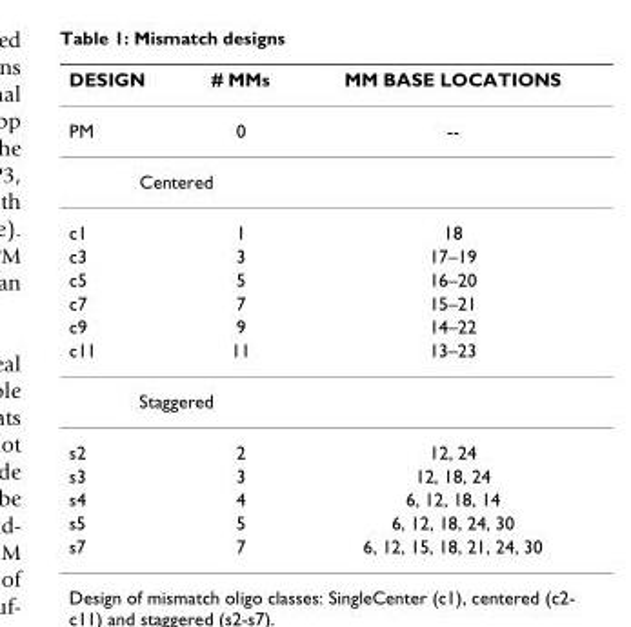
<table><thead><tr><td>DESIGN</td><td># MMs</td><td>MM BASE LOCATIONS</td></tr></thead><tbody><tr><td>PM</td><td>0</td><td>--</td></tr><tr><td colspan="3">Centered</td></tr><tr><td>c1</td><td>1</td><td>18</td></tr><tr><td>c3</td><td>3</td><td>17–19</td></tr><tr><td>c5</td><td>5</td><td>16–20</td></tr><tr><td>c7</td><td>7</td><td>15–21</td></tr><tr><td>c9</td><td>9</td><td>14–22</td></tr><tr><td>c11</td><td>11</td><td>13–23</td></tr><tr><td colspan="3">Staggered</td></tr><tr><td>s2</td><td>2</td><td>12, 24</td></tr><tr><td>s3</td><td>3</td><td>12, 18, 24</td></tr><tr><td>s4</td><td>4</td><td>6, 12, 18, 14</td></tr><tr><td>s5</td><td>5</td><td>6, 12, 18, 24, 30</td></tr><tr><td>s7</td><td>7</td><td>6, 12, 15, 18, 21, 24, 30</td></tr></tbody></table>